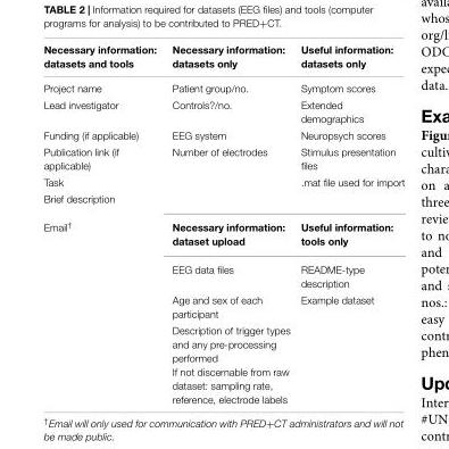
<table><thead><tr><td>Necessary information: datasets and tools</td><td>Necessary information: datasets only</td><td>Useful information: datasets only</td></tr></thead><tbody><tr><td>Project name</td><td>Patient group/no.</td><td>Symptom scores</td></tr><tr><td>Lead investigator</td><td>Controls?/no.</td><td>Extended demographics</td></tr><tr><td>Funding (if applicable)</td><td>EEG system</td><td>Neuropsych scores</td></tr><tr><td>Publication link (if applicable)</td><td>Number of electrodes</td><td>Stimulus presentation files</td></tr><tr><td>Task</td><td></td><td>.mat file used for import</td></tr><tr><td colspan="3">Brief description</td></tr><tr><td rowspan="5">Email<sup>†</sup></td><td>Necessary information: dataset upload</td><td>Useful information: tools only</td></tr><tr><td>EEG data files</td><td>README-type description</td></tr><tr><td>Age and sex of each participant</td><td>Example dataset</td></tr><tr><td>Description of trigger types and any pre-processing performed</td><td></td></tr><tr><td>If not discernable from raw dataset: sampling rate, reference, electrode labels</td><td></td></tr></tbody></table>